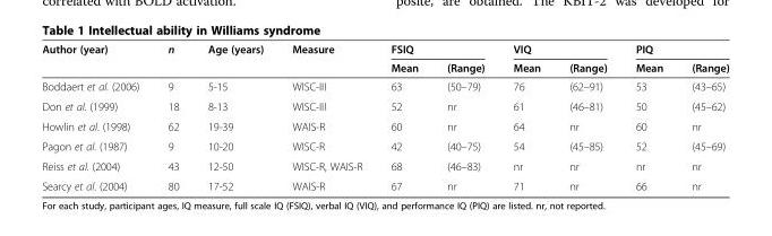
<table><thead><tr><td rowspan="2">Author (year)</td><td rowspan="2">n</td><td rowspan="2">Age (years)</td><td rowspan="2">Measure</td><td colspan="2">FSIQ</td><td colspan="2">VIQ</td><td colspan="2">PIQ</td></tr><tr><td>Mean</td><td>(Range)</td><td>Mean</td><td>(Range)</td><td>Mean</td><td>(Range)</td></tr></thead><tbody><tr><td>Boddaert et al. (2006)</td><td>9</td><td>5-15</td><td>WISC-III</td><td>63</td><td>(50–79)</td><td>76</td><td>(62–91)</td><td>53</td><td>(43–65)</td></tr><tr><td>Don et al. (1999)</td><td>18</td><td>8-13</td><td>WISC-III</td><td>52</td><td>nr</td><td>61</td><td>(46–81)</td><td>50</td><td>(45–62)</td></tr><tr><td>Howlin et al. (1998)</td><td>62</td><td>19-39</td><td>WAIS-R</td><td>60</td><td>nr</td><td>64</td><td>nr</td><td>60</td><td>nr</td></tr><tr><td>Pagon et al. (1987)</td><td>9</td><td>10-20</td><td>WISC-R</td><td>42</td><td>(40–75)</td><td>54</td><td>(45–85)</td><td>52</td><td>(45–69)</td></tr><tr><td>Reiss et al. (2004)</td><td>43</td><td>12-50</td><td>WISC-R, WAIS-R</td><td>68</td><td>(46–83)</td><td>nr</td><td>nr</td><td>nr</td><td>nr</td></tr><tr><td>Searcy et al. (2004)</td><td>80</td><td>17-52</td><td>WAIS-R</td><td>67</td><td>nr</td><td>71</td><td>nr</td><td>66</td><td>nr</td></tr></tbody></table>